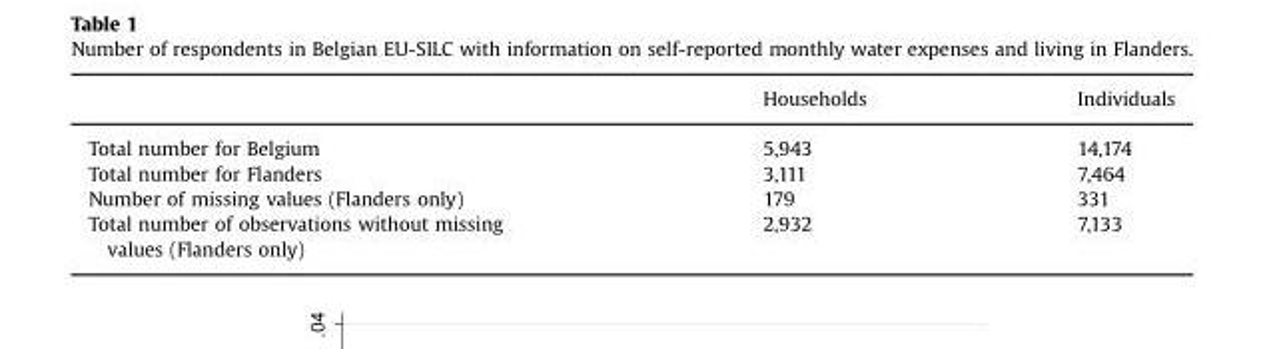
<table><thead><tr><td></td><td>Households</td><td>Individuals</td></tr></thead><tbody><tr><td>Total number for Belgium</td><td>5,943</td><td>14,174</td></tr><tr><td>Total number for Flanders</td><td>3,111</td><td>7,464</td></tr><tr><td>Number of missing values (Flanders only)</td><td>179</td><td>331</td></tr><tr><td>Total number of observations without missing values (Flanders only)</td><td>2,932</td><td>7,133</td></tr></tbody></table>